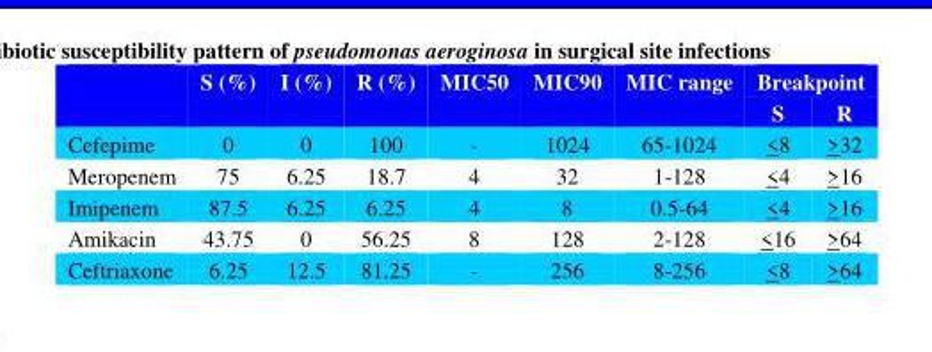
<table><thead><tr><td rowspan="2"></td><td rowspan="2">S (%)</td><td rowspan="2">I (%)</td><td rowspan="2">R (%)</td><td rowspan="2">MIC50</td><td rowspan="2">MIC90</td><td rowspan="2">MIC range</td><td colspan="2">Breakpoint</td></tr><tr><td>S</td><td>R</td></tr></thead><tbody><tr><td>Cefepime</td><td>0</td><td>0</td><td>100</td><td>-</td><td>1024</td><td>65-1024</td><td>&lt;8</td><td>&gt;32</td></tr><tr><td>Meropenem</td><td>75</td><td>6.25</td><td>18.7</td><td>4</td><td>32</td><td>1-128</td><td>&lt;4</td><td>&gt;16</td></tr><tr><td>Imipenem</td><td>87.5</td><td>6.25</td><td>6.25</td><td>4</td><td>8</td><td>0.5-64</td><td>&lt;4</td><td>&gt;16</td></tr><tr><td>Amikacin</td><td>43.75</td><td>0</td><td>56.25</td><td>8</td><td>128</td><td>2-128</td><td>&lt;16</td><td>&gt;64</td></tr><tr><td>Ceftriaxone</td><td>6.25</td><td>12.5</td><td>81.25</td><td>-</td><td>256</td><td>8-256</td><td>&lt;8</td><td>&gt;64</td></tr></tbody></table>